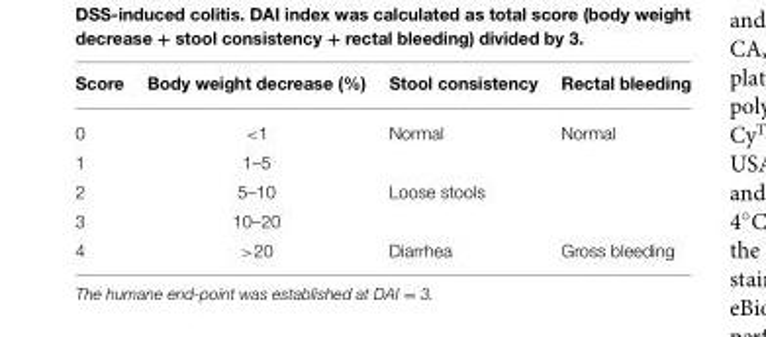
<table><thead><tr><td>Score</td><td>Body weight decrease (%)</td><td>Stool consistency</td><td>Rectal bleeding</td></tr></thead><tbody><tr><td>0</td><td>&lt;1</td><td>Normal</td><td>Normal</td></tr><tr><td>1</td><td>1–5</td><td></td><td></td></tr><tr><td>2</td><td>5–10</td><td>Loose stools</td><td></td></tr><tr><td>3</td><td>10–20</td><td></td><td></td></tr><tr><td>4</td><td>&gt;20</td><td>Diarrhea</td><td>Gross bleeding</td></tr></tbody></table>